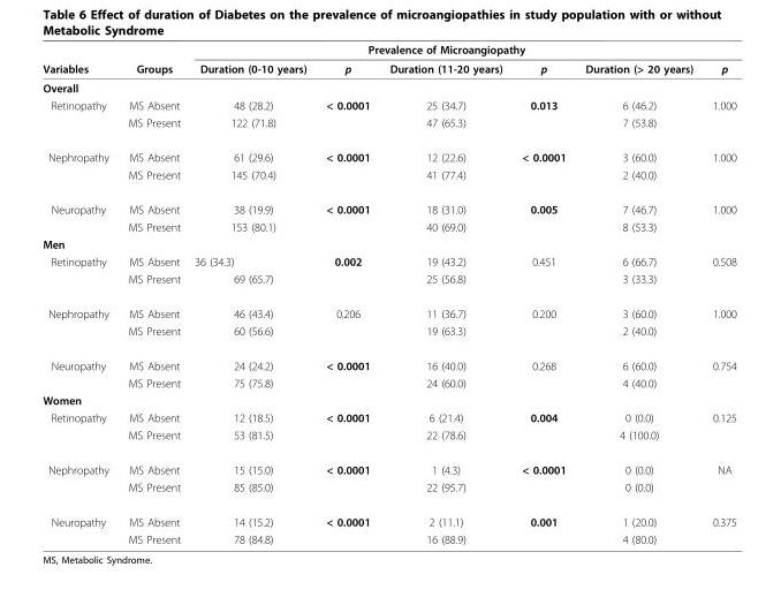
<table><thead><tr><td rowspan="2">Variables</td><td rowspan="2">Groups</td><td colspan="5">Prevalence of Microangiopathy</td><td rowspan="2">p</td></tr><tr><td>Duration (0-10 years)</td><td>p</td><td>Duration (11-20 years)</td><td>p</td><td>Duration (&gt; 20 years)</td></tr></thead><tbody><tr><td colspan="8">Overall</td></tr><tr><td rowspan="2">Retinopathy</td><td>MS Absent</td><td>48 (28.2)</td><td>&lt; 0.0001</td><td>25 (34.7)</td><td>0.013</td><td>6 (46.2)</td><td>1.000</td></tr><tr><td>MS Present</td><td>122 (71.8)</td><td></td><td>47 (65.3)</td><td></td><td>7 (53.8)</td><td></td></tr><tr><td rowspan="2">Nephropathy</td><td>MS Absent</td><td>61 (29.6)</td><td>&lt; 0.0001</td><td>12 (22.6)</td><td>&lt; 0.0001</td><td>3 (60.0)</td><td>1.000</td></tr><tr><td>MS Present</td><td>145 (70.4)</td><td></td><td>41 (77.4)</td><td></td><td>2 (40.0)</td><td></td></tr><tr><td rowspan="2">Neuropathy</td><td>MS Absent</td><td>38 (19.9)</td><td>&lt; 0.0001</td><td>18 (31.0)</td><td>0.005</td><td>7 (46.7)</td><td>1.000</td></tr><tr><td>MS Present</td><td>153 (80.1)</td><td></td><td>40 (69.0)</td><td></td><td>8 (53.3)</td><td></td></tr><tr><td colspan="8">Men</td></tr><tr><td rowspan="2">Retinopathy</td><td>MS Absent</td><td>36 (34.3)</td><td>0.002</td><td>19 (43.2)</td><td>0.451</td><td>6 (66.7)</td><td>0.508</td></tr><tr><td>MS Present</td><td>69 (65.7)</td><td></td><td>25 (56.8)</td><td></td><td>3 (33.3)</td><td></td></tr><tr><td rowspan="2">Nephropathy</td><td>MS Absent</td><td>46 (43.4)</td><td>0.206</td><td>11 (36.7)</td><td>0.200</td><td>3 (60.0)</td><td>1.000</td></tr><tr><td>MS Present</td><td>60 (56.6)</td><td></td><td>19 (63.3)</td><td></td><td>2 (40.0)</td><td></td></tr><tr><td rowspan="2">Neuropathy</td><td>MS Absent</td><td>24 (24.2)</td><td>&lt; 0.0001</td><td>16 (40.0)</td><td>0.268</td><td>6 (60.0)</td><td>0.754</td></tr><tr><td>MS Present</td><td>75 (75.8)</td><td></td><td>24 (60.0)</td><td></td><td>4 (40.0)</td><td></td></tr><tr><td colspan="8">Women</td></tr><tr><td rowspan="2">Retinopathy</td><td>MS Absent</td><td>12 (18.5)</td><td>&lt; 0.0001</td><td>6 (21.4)</td><td>0.004</td><td>0 (0.0)</td><td>0.125</td></tr><tr><td>MS Present</td><td>53 (81.5)</td><td></td><td>22 (78.6)</td><td></td><td>4 (100.0)</td><td></td></tr><tr><td rowspan="2">Nephropathy</td><td>MS Absent</td><td>15 (15.0)</td><td>&lt; 0.0001</td><td>1 (4.3)</td><td>&lt; 0.0001</td><td>0 (0.0)</td><td>NA</td></tr><tr><td>MS Present</td><td>85 (85.0)</td><td></td><td>22 (95.7)</td><td></td><td>0 (0.0)</td><td></td></tr><tr><td rowspan="2">Neuropathy</td><td>MS Absent</td><td>14 (15.2)</td><td>&lt; 0.0001</td><td>2 (11.1)</td><td>0.001</td><td>1 (20.0)</td><td>0.375</td></tr><tr><td>MS Present</td><td>78 (84.8)</td><td></td><td>16 (88.9)</td><td></td><td>4 (80.0)</td><td></td></tr></tbody></table>